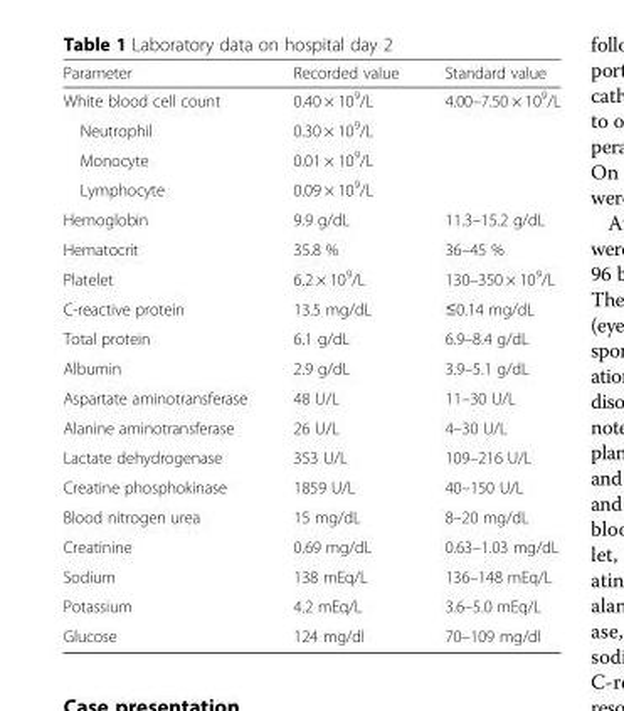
<table><thead><tr><td>Parameter</td><td>Recorded value</td><td>Standard value</td></tr></thead><tbody><tr><td>White blood cell count</td><td>0.40 × 10<sup>9</sup>/L</td><td>4.00–7.50 × 10<sup>9</sup>/L</td></tr><tr><td>Neutrophil</td><td>0.30 × 10<sup>9</sup>/L</td><td></td></tr><tr><td>Monocyte</td><td>0.01 × 10<sup>9</sup>/L</td><td></td></tr><tr><td>Lymphocyte</td><td>0.09 × 10<sup>9</sup>/L</td><td></td></tr><tr><td>Hemoglobin</td><td>9.9 g/dL</td><td>11.3–15.2 g/dL</td></tr><tr><td>Hematocrit</td><td>35.8 %</td><td>36–45 %</td></tr><tr><td>Platelet</td><td>6.2 × 10<sup>9</sup>/L</td><td>130–350 × 10<sup>9</sup>/L</td></tr><tr><td>C-reactive protein</td><td>13.5 mg/dL</td><td>≤0.14 mg/dL</td></tr><tr><td>Total protein</td><td>6.1 g/dL</td><td>6.9–8.4 g/dL</td></tr><tr><td>Albumin</td><td>2.9 g/dL</td><td>3.9–5.1 g/dL</td></tr><tr><td>Aspartate aminotransferase</td><td>48 U/L</td><td>11–30 U/L</td></tr><tr><td>Alanine aminotransferase</td><td>26 U/L</td><td>4–30 U/L</td></tr><tr><td>Lactate dehydrogenase</td><td>353 U/L</td><td>109–216 U/L</td></tr><tr><td>Creatine phosphokinase</td><td>1859 U/L</td><td>40–150 U/L</td></tr><tr><td>Blood nitrogen urea</td><td>15 mg/dL</td><td>8–20 mg/dL</td></tr><tr><td>Creatinine</td><td>0.69 mg/dL</td><td>0.63–1.03 mg/dL</td></tr><tr><td>Sodium</td><td>138 mEq/L</td><td>136–148 mEq/L</td></tr><tr><td>Potassium</td><td>4.2 mEq/L</td><td>3.6–5.0 mEq/L</td></tr><tr><td>Glucose</td><td>124 mg/dl</td><td>70–109 mg/dl</td></tr></tbody></table>